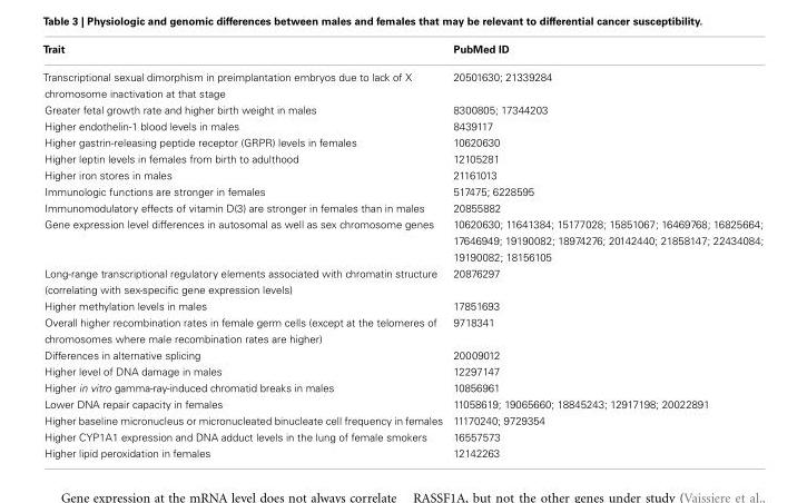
<table><thead><tr><td>Trait</td><td>PubMed ID</td></tr></thead><tbody><tr><td>Transcriptional sexual dimorphism in preimplantation embryos due to lack of X chromosome inactivation at that stage</td><td>20501630; 21339284</td></tr><tr><td>Greater fetal growth rate and higher birth weight in males</td><td>8300805; 17344203</td></tr><tr><td>Higher endothelin-1 blood levels in males</td><td>8439117</td></tr><tr><td>Higher gastrin-releasing peptide receptor (GRPR) levels in females</td><td>10620630</td></tr><tr><td>Higher leptin levels in females from birth to adulthood</td><td>12105281</td></tr><tr><td>Higher iron stores in males</td><td>21161013</td></tr><tr><td>Immunologic functions are stronger in females</td><td>517475; 6228595</td></tr><tr><td>Immunomodulatory effects of vitamin D(3) are stronger in females than in males</td><td>20855882</td></tr><tr><td>Gene expression level differences in autosomal as well as sex chromosome genes</td><td>10620630; 11641384; 15177028; 15851067; 16469768; 16825664; 17646949; 19190082; 18974276; 20142440; 21858147; 22434084; 19190082; 18156105</td></tr><tr><td>Long-range transcriptional regulatory elements associated with chromatin structure (correlating with sex-specific gene expression levels)</td><td>20876297</td></tr><tr><td>Higher methylation levels in males</td><td>17851693</td></tr><tr><td>Overall higher recombination rates in female germ cells (except at the telomeres of chromosomes where male recombination rates are higher)</td><td>9718341</td></tr><tr><td>Differences in alternative splicing</td><td>20009012</td></tr><tr><td>Higher level of DNA damage in males</td><td>12297147</td></tr><tr><td>Higher in vitro gamma-ray-induced chromatid breaks in males</td><td>10856961</td></tr><tr><td>Lower DNA repair capacity in females</td><td>11058619; 19065660; 18845243; 12917198; 20022891</td></tr><tr><td>Higher baseline micronucleus or micronucleated binucleate cell frequency in females</td><td>11170240; 9729354</td></tr><tr><td>Higher CYP1A1 expression and DNA adduct levels in the lung of female smokers</td><td>16557573</td></tr><tr><td>Higher lipid peroxidation in females</td><td>12142263</td></tr></tbody></table>